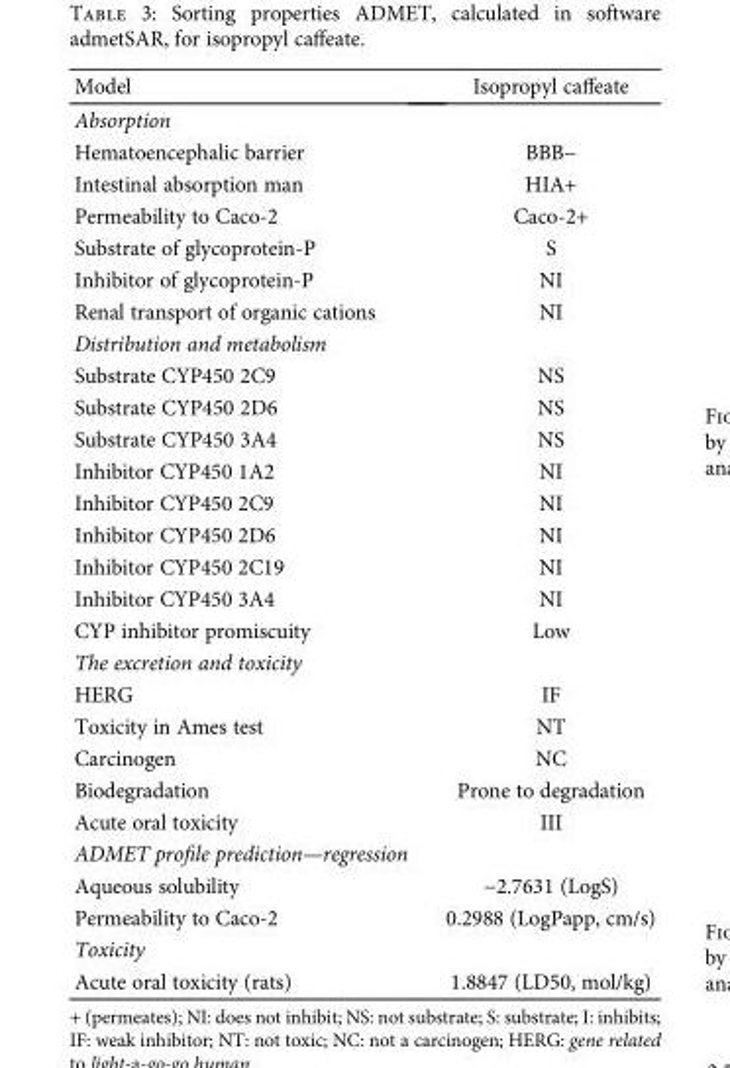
<table><thead><tr><td>Model</td><td>Isopropyl caffeate</td></tr></thead><tbody><tr><td colspan="2">Absorption</td></tr><tr><td>Hematoencephalic barrier</td><td>BBB−</td></tr><tr><td>Intestinal absorption man</td><td>HIA+</td></tr><tr><td>Permeability to Caco-2</td><td>Caco-2+</td></tr><tr><td>Substrate of glycoprotein-P</td><td>S</td></tr><tr><td>Inhibitor of glycoprotein-P</td><td>NI</td></tr><tr><td>Renal transport of organic cations</td><td>NI</td></tr><tr><td colspan="2">Distribution and metabolism</td></tr><tr><td>Substrate CYP450 2C9</td><td>NS</td></tr><tr><td>Substrate CYP450 2D6</td><td>NS</td></tr><tr><td>Substrate CYP450 3A4</td><td>NS</td></tr><tr><td>Inhibitor CYP450 1A2</td><td>NI</td></tr><tr><td>Inhibitor CYP450 2C9</td><td>NI</td></tr><tr><td>Inhibitor CYP450 2D6</td><td>NI</td></tr><tr><td>Inhibitor CYP450 2C19</td><td>NI</td></tr><tr><td>Inhibitor CYP450 3A4</td><td>NI</td></tr><tr><td>CYP inhibitor promiscuity</td><td>Low</td></tr><tr><td colspan="2">The excretion and toxicity</td></tr><tr><td>HERG</td><td>IF</td></tr><tr><td>Toxicity in Ames test</td><td>NT</td></tr><tr><td>Carcinogen</td><td>NC</td></tr><tr><td>Biodegradation</td><td>Prone to degradation</td></tr><tr><td>Acute oral toxicity</td><td>III</td></tr><tr><td colspan="2">ADMET profile prediction—regression</td></tr><tr><td>Aqueous solubility</td><td>−2.7631 (LogS)</td></tr><tr><td>Permeability to Caco-2</td><td>0.2988 (LogPapp, cm/s)</td></tr><tr><td colspan="2">Toxicity</td></tr><tr><td>Acute oral toxicity (rats)</td><td>1.8847 (LD50, mol/kg)</td></tr></tbody></table>